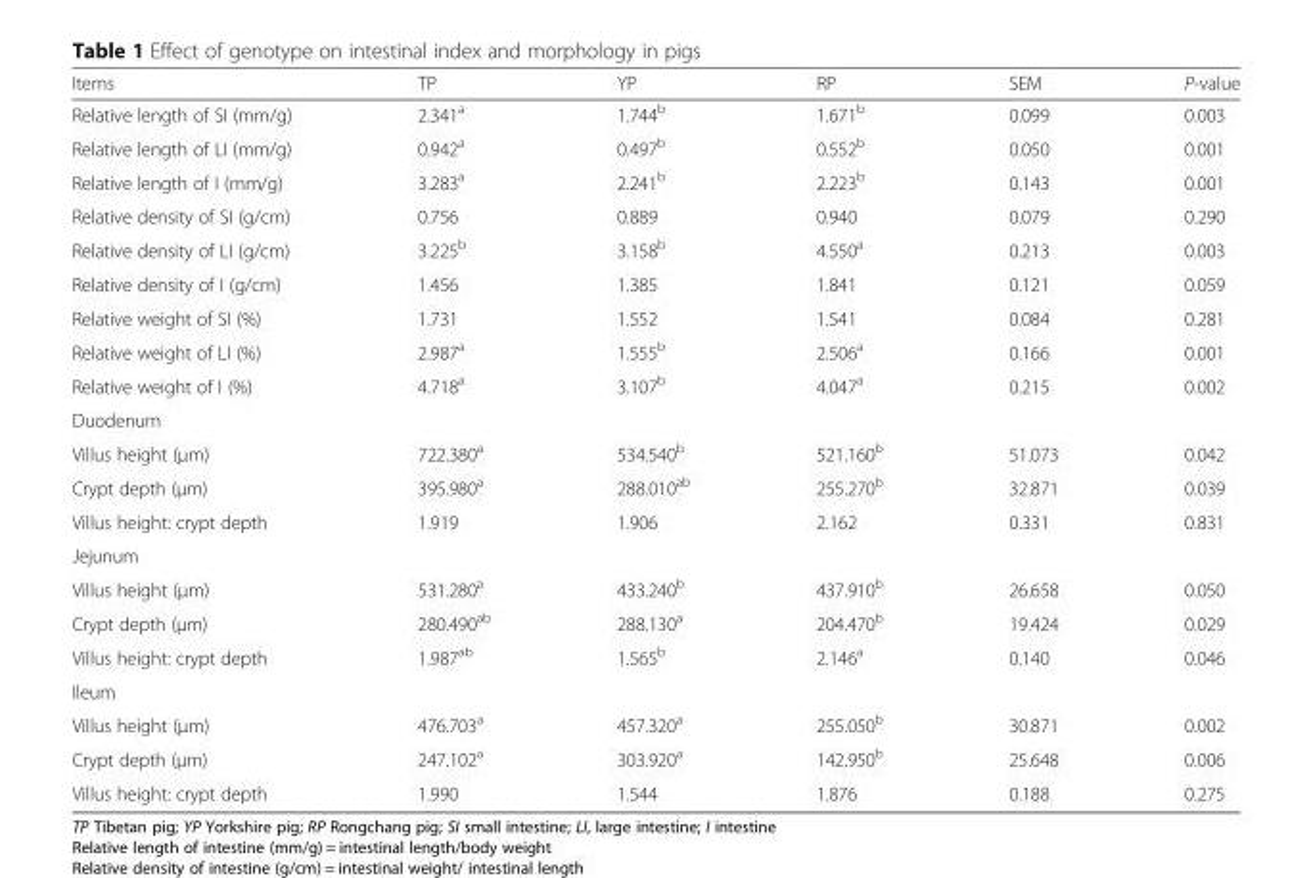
<table><thead><tr><td>Items</td><td>TP</td><td>YP</td><td>RP</td><td>SEM</td><td>P-value</td></tr></thead><tbody><tr><td>Relative length of SI (mm/g)</td><td>2.341<sup>a</sup></td><td>1.744<sup>b</sup></td><td>1.671<sup>b</sup></td><td>0.099</td><td>0.003</td></tr><tr><td>Relative length of LI (mm/g)</td><td>0.942<sup>a</sup></td><td>0.497<sup>b</sup></td><td>0.552<sup>b</sup></td><td>0.050</td><td>0.001</td></tr><tr><td>Relative length of I (mm/g)</td><td>3.283<sup>a</sup></td><td>2.241<sup>b</sup></td><td>2.223<sup>b</sup></td><td>0.143</td><td>0.001</td></tr><tr><td>Relative density of SI (g/cm)</td><td>0.756</td><td>0.889</td><td>0.940</td><td>0.079</td><td>0.290</td></tr><tr><td>Relative density of LI (g/cm)</td><td>3.225<sup>b</sup></td><td>3.158<sup>b</sup></td><td>4.550<sup>a</sup></td><td>0.213</td><td>0.003</td></tr><tr><td>Relative density of I (g/cm)</td><td>1.456</td><td>1.385</td><td>1.841</td><td>0.121</td><td>0.059</td></tr><tr><td>Relative weight of SI (%)</td><td>1.731</td><td>1.552</td><td>1.541</td><td>0.084</td><td>0.281</td></tr><tr><td>Relative weight of LI (%)</td><td>2.987<sup>a</sup></td><td>1.555<sup>b</sup></td><td>2.506<sup>a</sup></td><td>0.166</td><td>0.001</td></tr><tr><td>Relative weight of I (%)</td><td>4.718<sup>a</sup></td><td>3.107<sup>b</sup></td><td>4.047<sup>a</sup></td><td>0.215</td><td>0.002</td></tr><tr><td colspan="6">Duodenum</td></tr><tr><td>Villus height (μm)</td><td>722.380<sup>a</sup></td><td>534.540<sup>b</sup></td><td>521.160<sup>b</sup></td><td>51.073</td><td>0.042</td></tr><tr><td>Crypt depth (μm)</td><td>395.980<sup>a</sup></td><td>288.010<sup>ab</sup></td><td>255.270<sup>b</sup></td><td>32.871</td><td>0.039</td></tr><tr><td>Villus height: crypt depth</td><td>1.919</td><td>1.906</td><td>2.162</td><td>0.331</td><td>0.831</td></tr><tr><td colspan="6">Jejunum</td></tr><tr><td>Villus height (μm)</td><td>531.280<sup>a</sup></td><td>433.240<sup>b</sup></td><td>437.910<sup>b</sup></td><td>26.658</td><td>0.050</td></tr><tr><td>Crypt depth (μm)</td><td>280.490<sup>ab</sup></td><td>288.130<sup>a</sup></td><td>204.470<sup>b</sup></td><td>19.424</td><td>0.029</td></tr><tr><td>Villus height: crypt depth</td><td>1.987<sup>ab</sup></td><td>1.565<sup>b</sup></td><td>2.146<sup>a</sup></td><td>0.140</td><td>0.046</td></tr><tr><td colspan="6">Ileum</td></tr><tr><td>Villus height (μm)</td><td>476.703<sup>a</sup></td><td>457.320<sup>a</sup></td><td>255.050<sup>b</sup></td><td>30.871</td><td>0.002</td></tr><tr><td>Crypt depth (μm)</td><td>247.102<sup>a</sup></td><td>303.920<sup>a</sup></td><td>142.950<sup>b</sup></td><td>25.648</td><td>0.006</td></tr><tr><td>Villus height: crypt depth</td><td>1.990</td><td>1.544</td><td>1.876</td><td>0.188</td><td>0.275</td></tr></tbody></table>